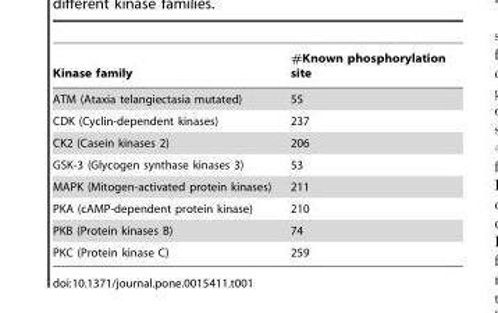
<table><thead><tr><td>Kinase family</td><td>#Known phosphorylation site</td></tr></thead><tbody><tr><td>ATM (Ataxia telangiectasia mutated)</td><td>55</td></tr><tr><td>CDK (Cyclin-dependent kinases)</td><td>237</td></tr><tr><td>CK2 (Casein kinases 2)</td><td>206</td></tr><tr><td>GSK-3 (Glycogen synthase kinases 3)</td><td>53</td></tr><tr><td>MAPK (Mitogen-activated protein kinases)</td><td>211</td></tr><tr><td>PKA (cAMP-dependent protein kinase)</td><td>210</td></tr><tr><td>PKB (Protein kinases B)</td><td>74</td></tr><tr><td>PKC (Protein kinase C)</td><td>259</td></tr></tbody></table>